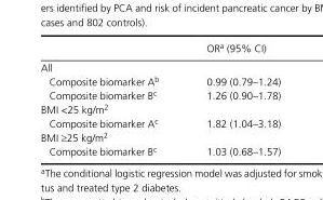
<table><thead><tr><td></td><td>OR<sup>a</sup> (95% CI)</td></tr></thead><tbody><tr><td colspan="2">All</td></tr><tr><td>Composite biomarker Ab</td><td>0.99 (0.79–1.24)</td></tr><tr><td>Composite biomarker Bc</td><td>1.26 (0.90–1.78)</td></tr><tr><td colspan="2">BMI &lt;25 kg/m<sup>2</sup></td></tr><tr><td>Composite biomarker Ac</td><td>1.82 (1.04–3.18)</td></tr><tr><td colspan="2">BMI ≥25 kg/m<sup>2</sup></td></tr><tr><td>Composite biomarker Bc</td><td>1.03 (0.68–1.57)</td></tr></tbody></table>